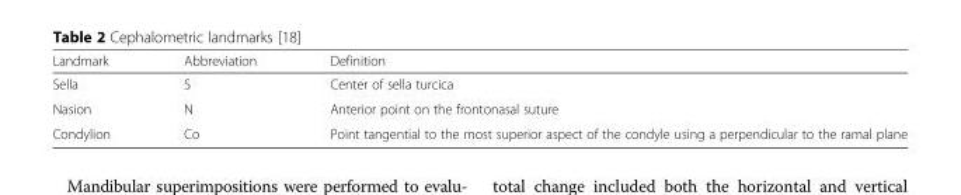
<table><thead><tr><td>Landmark</td><td>Abbreviation</td><td>Definition</td></tr></thead><tbody><tr><td>Sella</td><td>S</td><td>Center of sella turcica</td></tr><tr><td>Nasion</td><td>N</td><td>Anterior point on the frontonasal suture</td></tr><tr><td>Condylion</td><td>Co</td><td>Point tangential to the most superior aspect of the condyle using a perpendicular to the ramal plane</td></tr></tbody></table>